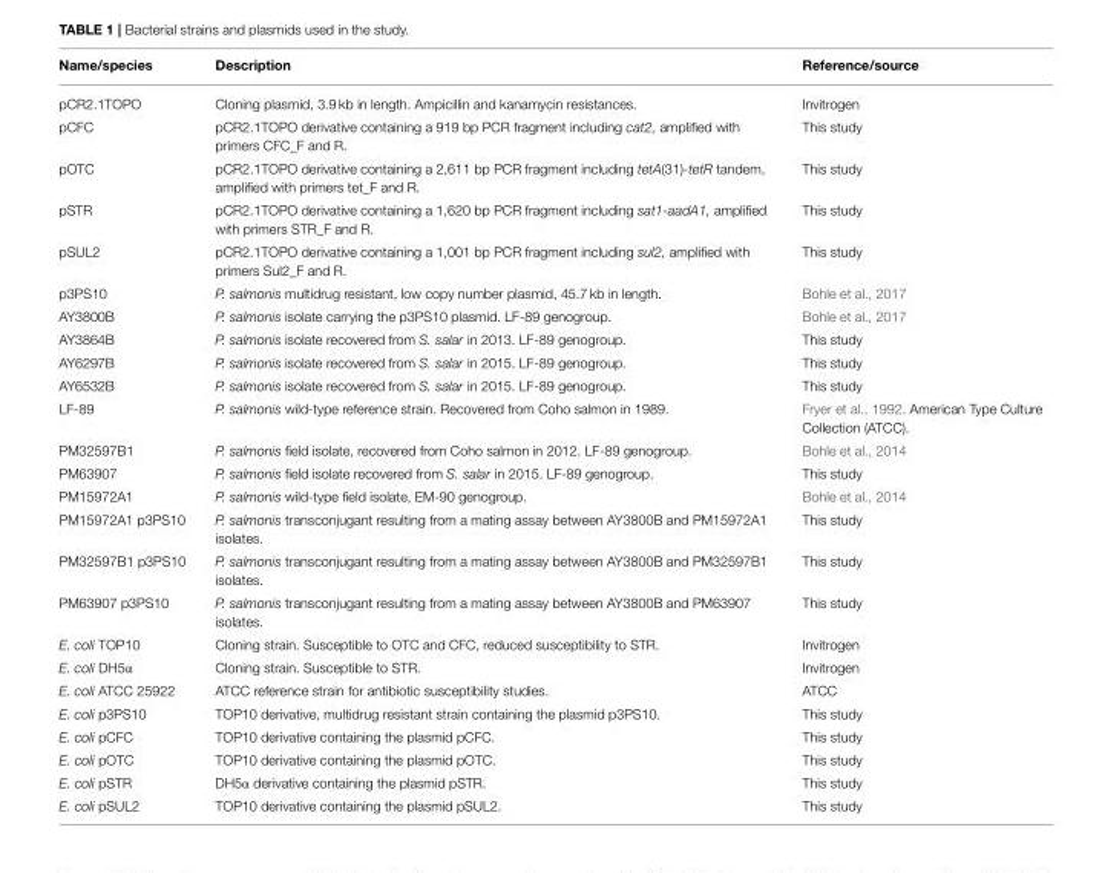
<table><thead><tr><td>Name/species</td><td>Description</td><td>Reference/source</td></tr></thead><tbody><tr><td>pCR2.1TOPO</td><td>Cloning plasmid, 3.9 kb in length. Ampicillin and kanamycin resistances.</td><td>Invitrogen</td></tr><tr><td>pCFC</td><td>pCR2.1TOPO derivative containing a 919 bp PCR fragment including cat2, amplified with primers CFC_F and R.</td><td>This study</td></tr><tr><td>pOTC</td><td>pCR2.1TOPO derivative containing a 2,611 bp PCR fragment including tetA(31)-tetR tandem, amplified with primers tet_F and R.</td><td>This study</td></tr><tr><td>pSTR</td><td>pCR2.1TOPO derivative containing a 1,620 bp PCR fragment including sat1-aadA1, amplified with primers STR_F and R.</td><td>This study</td></tr><tr><td>pSUL2</td><td>pCR2.1TOPO derivative containing a 1,001 bp PCR fragment including sul2, amplified with primers Sul2_F and R.</td><td>This study</td></tr><tr><td>p3PS10</td><td>P. salmonis multidrug resistant, low copy number plasmid, 45.7 kb in length.</td><td>Bohle et al., 2017</td></tr><tr><td>AY3800B</td><td>P. salmonis isolate carrying the p3PS10 plasmid. LF-89 genogroup.</td><td>Bohle et al., 2017</td></tr><tr><td>AY3864B</td><td>P. salmonis isolate recovered from S. salar in 2013. LF-89 genogroup.</td><td>This study</td></tr><tr><td>AY6297B</td><td>P. salmonis isolate recovered from S. salar in 2015. LF-89 genogroup.</td><td>This study</td></tr><tr><td>AY6532B</td><td>P. salmonis isolate recovered from S. salar in 2015. LF-89 genogroup.</td><td>This study</td></tr><tr><td>LF-89</td><td>P. salmonis wild-type reference strain. Recovered from Coho salmon in 1989.</td><td>Fryer et al., 1992. American Type Culture Collection (ATCC).</td></tr><tr><td>PM32597B1</td><td>P. salmonis field isolate, recovered from Coho salmon in 2012. LF-89 genogroup.</td><td>Bohle et al., 2014</td></tr><tr><td>PM63907</td><td>P. salmonis field isolate recovered from S. salar in 2015. LF-89 genogroup.</td><td>This study</td></tr><tr><td>PM15972A1</td><td>P. salmonis wild-type field isolate, EM-90 genogroup.</td><td>Bohle et al., 2014</td></tr><tr><td>PM15972A1 p3PS10</td><td>P. salmonis transconjugant resulting from a mating assay between AY3800B and PM15972A1 isolates.</td><td>This study</td></tr><tr><td>PM32597B1 p3PS10</td><td>P. salmonis transconjugant resulting from a mating assay between AY3800B and PM32597B1 isolates.</td><td>This study</td></tr><tr><td>PM63907 p3PS10</td><td>P. salmonis transconjugant resulting from a mating assay between AY3800B and PM63907 isolates.</td><td>This study</td></tr><tr><td>E. coli TOP10</td><td>Cloning strain. Susceptible to OTC and CFC, reduced susceptibility to STR.</td><td>Invitrogen</td></tr><tr><td>E. coli DH5α</td><td>Cloning strain. Susceptible to STR.</td><td>Invitrogen</td></tr><tr><td>E. coli ATCC 25922</td><td>ATCC reference strain for antibiotic susceptibility studies.</td><td>ATCC</td></tr><tr><td>E. coli p3PS10</td><td>TOP10 derivative, multidrug resistant strain containing the plasmid p3PS10.</td><td>This study</td></tr><tr><td>E. coli pCFC</td><td>TOP10 derivative containing the plasmid pCFC.</td><td>This study</td></tr><tr><td>E. coli pOTC</td><td>TOP10 derivative containing the plasmid pOTC.</td><td>This study</td></tr><tr><td>E. coli pSTR</td><td>DH5α derivative containing the plasmid pSTR.</td><td>This study</td></tr><tr><td>E. coli pSUL2</td><td>TOP10 derivative containing the plasmid pSUL2.</td><td>This study</td></tr></tbody></table>